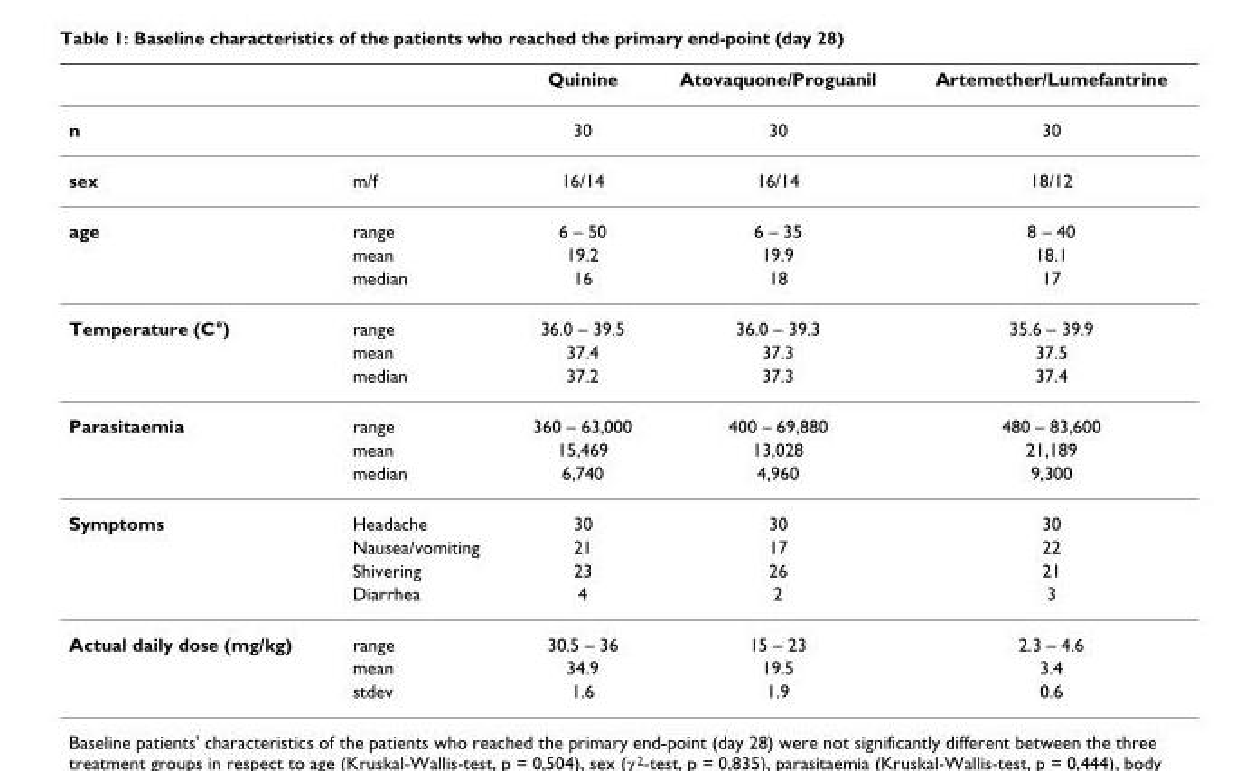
<table><thead><tr><td></td><td></td><td>Quinine</td><td>Atovaquone/Proguanil</td><td>Artemether/Lumefantrine</td></tr></thead><tbody><tr><td>n</td><td></td><td>30</td><td>30</td><td>30</td></tr><tr><td>sex</td><td>m/f</td><td>16/14</td><td>16/14</td><td>18/12</td></tr><tr><td rowspan="3">age</td><td>range</td><td>6 – 50</td><td>6 – 35</td><td>8 – 40</td></tr><tr><td>mean</td><td>19.2</td><td>19.9</td><td>18.1</td></tr><tr><td>median</td><td>16</td><td>18</td><td>17</td></tr><tr><td rowspan="3">Temperature (C°)</td><td>range</td><td>36.0 – 39.5</td><td>36.0 – 39.3</td><td>35.6 – 39.9</td></tr><tr><td>mean</td><td>37.4</td><td>37.3</td><td>37.5</td></tr><tr><td>median</td><td>37.2</td><td>37.3</td><td>37.4</td></tr><tr><td rowspan="3">Parasitaemia</td><td>range</td><td>360 – 63,000</td><td>400 – 69,880</td><td>480 – 83,600</td></tr><tr><td>mean</td><td>15,469</td><td>13,028</td><td>21,189</td></tr><tr><td>median</td><td>6,740</td><td>4,960</td><td>9,300</td></tr><tr><td rowspan="4">Symptoms</td><td>Headache</td><td>30</td><td>30</td><td>30</td></tr><tr><td>Nausea/vomiting</td><td>21</td><td>17</td><td>22</td></tr><tr><td>Shivering</td><td>23</td><td>26</td><td>21</td></tr><tr><td>Diarrhea</td><td>4</td><td>2</td><td>3</td></tr><tr><td rowspan="3">Actual daily dose (mg/kg)</td><td>range</td><td>30.5 – 36</td><td>15 – 23</td><td>2.3 – 4.6</td></tr><tr><td>mean</td><td>34.9</td><td>19.5</td><td>3.4</td></tr><tr><td>stdev</td><td>1.6</td><td>1.9</td><td>0.6</td></tr></tbody></table>